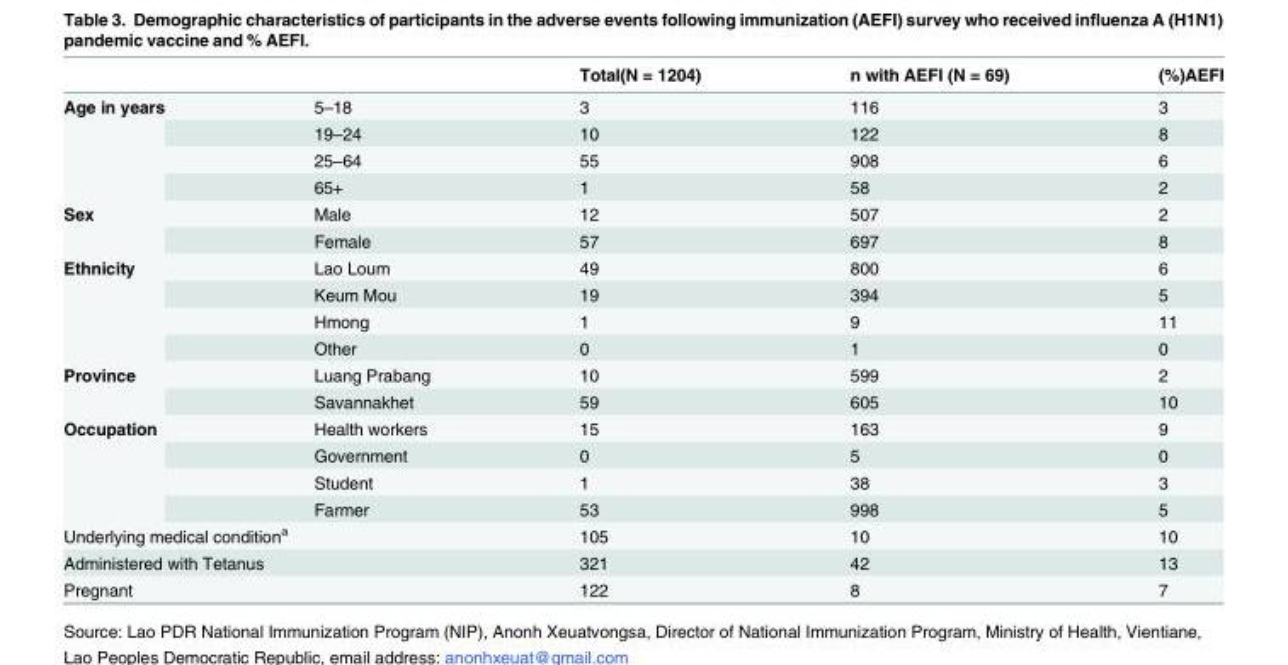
<table><thead><tr><td></td><td></td><td>Total(N = 1204)</td><td>n with AEFI (N = 69)</td><td>(%)AEFI</td></tr></thead><tbody><tr><td rowspan="4">Age in years</td><td>5–18</td><td>3</td><td>116</td><td>3</td></tr><tr><td>19–24</td><td>10</td><td>122</td><td>8</td></tr><tr><td>25–64</td><td>55</td><td>908</td><td>6</td></tr><tr><td>65+</td><td>1</td><td>58</td><td>2</td></tr><tr><td rowspan="2">Sex</td><td>Male</td><td>12</td><td>507</td><td>2</td></tr><tr><td>Female</td><td>57</td><td>697</td><td>8</td></tr><tr><td rowspan="4">Ethnicity</td><td>Lao Loum</td><td>49</td><td>800</td><td>6</td></tr><tr><td>Keum Mou</td><td>19</td><td>394</td><td>5</td></tr><tr><td>Hmong</td><td>1</td><td>9</td><td>11</td></tr><tr><td>Other</td><td>0</td><td>1</td><td>0</td></tr><tr><td rowspan="2">Province</td><td>Luang Prabang</td><td>10</td><td>599</td><td>2</td></tr><tr><td>Savannakhet</td><td>59</td><td>605</td><td>10</td></tr><tr><td rowspan="4">Occupation</td><td>Health workers</td><td>15</td><td>163</td><td>9</td></tr><tr><td>Government</td><td>0</td><td>5</td><td>0</td></tr><tr><td>Student</td><td>1</td><td>38</td><td>3</td></tr><tr><td>Farmer</td><td>53</td><td>998</td><td>5</td></tr><tr><td colspan="2">Underlying medical condition<sup>a</sup></td><td>105</td><td>10</td><td>10</td></tr><tr><td colspan="2">Administered with Tetanus</td><td>321</td><td>42</td><td>13</td></tr><tr><td colspan="2">Pregnant</td><td>122</td><td>8</td><td>7</td></tr></tbody></table>